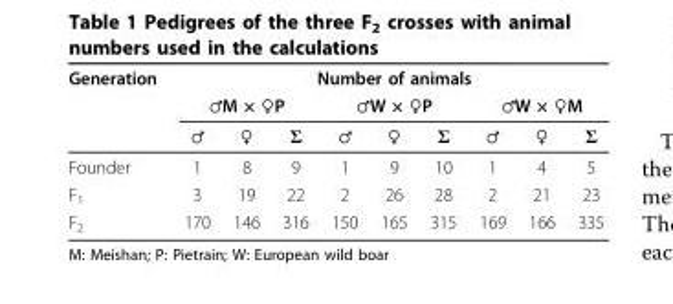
<table><thead><tr><td rowspan="3">Generation</td><td colspan="9">Number of animals</td></tr><tr><td colspan="3">♂M × ♀P</td><td colspan="3">♂W × ♀P</td><td colspan="3">♂W × ♀M</td></tr><tr><td>♂</td><td>♀</td><td>Σ</td><td>♂</td><td>♀</td><td>Σ</td><td>♂</td><td>♀</td><td>Σ</td></tr></thead><tbody><tr><td>Founder</td><td>1</td><td>8</td><td>9</td><td>1</td><td>9</td><td>10</td><td>1</td><td>4</td><td>5</td></tr><tr><td>F<sub>1</sub></td><td>3</td><td>19</td><td>22</td><td>2</td><td>26</td><td>28</td><td>2</td><td>21</td><td>23</td></tr><tr><td>F<sub>2</sub></td><td>170</td><td>146</td><td>316</td><td>150</td><td>165</td><td>315</td><td>169</td><td>166</td><td>335</td></tr></tbody></table>